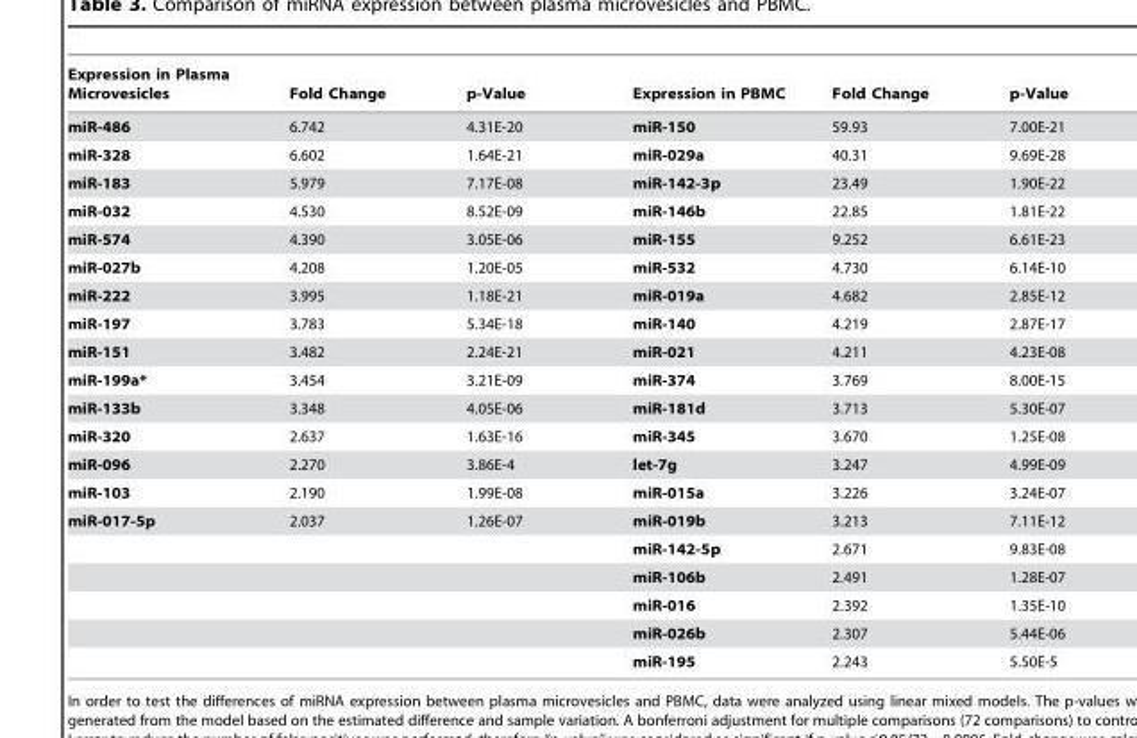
<table><thead><tr><td>Expression in Plasma Microvesicles</td><td>Fold Change</td><td>p-Value</td><td>Expression in PBMC</td><td>Fold Change</td><td>p-Value</td></tr></thead><tbody><tr><td>miR-486</td><td>6.742</td><td>4.31E-20</td><td>miR-150</td><td>59.93</td><td>7.00E-21</td></tr><tr><td>miR-328</td><td>6.602</td><td>1.64E-21</td><td>miR-029a</td><td>40.31</td><td>9.69E-28</td></tr><tr><td>miR-183</td><td>5.979</td><td>7.17E-08</td><td>miR-142-3p</td><td>23.49</td><td>1.90E-22</td></tr><tr><td>miR-032</td><td>4.530</td><td>8.52E-09</td><td>miR-146b</td><td>22.85</td><td>1.81E-22</td></tr><tr><td>miR-574</td><td>4.390</td><td>3.05E-06</td><td>miR-155</td><td>9.252</td><td>6.61E-23</td></tr><tr><td>miR-027b</td><td>4.208</td><td>1.20E-05</td><td>miR-532</td><td>4.730</td><td>6.14E-10</td></tr><tr><td>miR-222</td><td>3.995</td><td>1.18E-21</td><td>miR-019a</td><td>4.682</td><td>2.85E-12</td></tr><tr><td>miR-197</td><td>3.783</td><td>5.34E-18</td><td>miR-140</td><td>4.219</td><td>2.87E-17</td></tr><tr><td>miR-151</td><td>3.482</td><td>2.24E-21</td><td>miR-021</td><td>4.211</td><td>4.23E-08</td></tr><tr><td>miR-199a*</td><td>3.454</td><td>3.21E-09</td><td>miR-374</td><td>3.769</td><td>8.00E-15</td></tr><tr><td>miR-133b</td><td>3.348</td><td>4.05E-06</td><td>miR-181d</td><td>3.713</td><td>5.30E-07</td></tr><tr><td>miR-320</td><td>2.637</td><td>1.63E-16</td><td>miR-345</td><td>3.670</td><td>1.25E-08</td></tr><tr><td>miR-096</td><td>2.270</td><td>3.86E-4</td><td>let-7g</td><td>3.247</td><td>4.99E-09</td></tr><tr><td>miR-103</td><td>2.190</td><td>1.99E-08</td><td>miR-015a</td><td>3.226</td><td>3.24E-07</td></tr><tr><td rowspan="6">miR-017-5p</td><td>2.037</td><td>1.26E-07</td><td>miR-019b</td><td>3.213</td><td>7.11E-12</td></tr><tr><td></td><td></td><td>miR-142-5p</td><td>2.671</td><td>9.83E-08</td></tr><tr><td></td><td></td><td>miR-106b</td><td>2.491</td><td>1.28E-07</td></tr><tr><td></td><td></td><td>miR-016</td><td>2.392</td><td>1.35E-10</td></tr><tr><td></td><td></td><td>miR-026b</td><td>2.307</td><td>5.44E-06</td></tr><tr><td></td><td></td><td>miR-195</td><td>2.243</td><td>5.50E-5</td></tr></tbody></table>